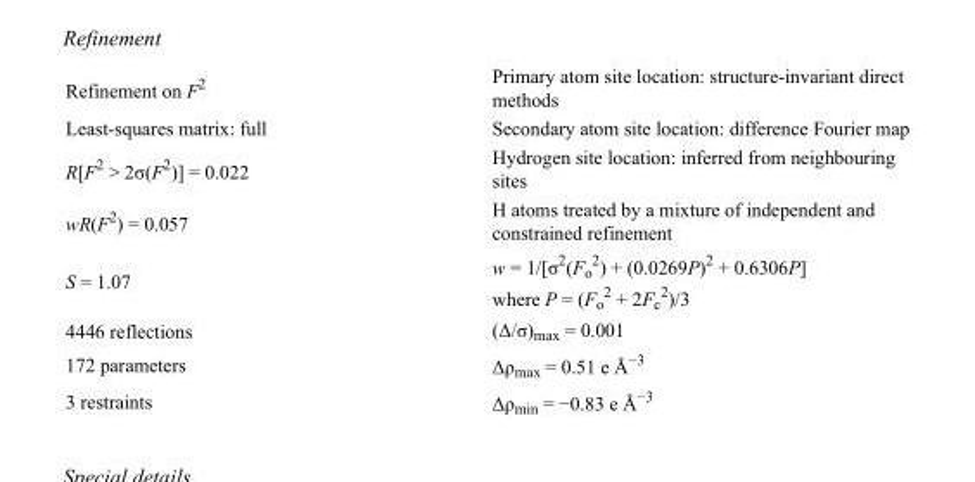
<table><tbody><tr><td>Refinement on F<sup>2</sup></td><td>Primary atom site location: structure-invariant direct methods</td></tr><tr><td>Least-squares matrix: full</td><td>Secondary atom site location: difference Fourier map</td></tr><tr><td>R[F<sup>2</sup> &gt; 2σ(F<sup>2</sup>)] = 0.022</td><td>Hydrogen site location: inferred from neighbouring sites</td></tr><tr><td>wR(F<sup>2</sup>) = 0.057</td><td>H atoms treated by a mixture of independent and constrained refinement</td></tr><tr><td>S = 1.07</td><td>w = 1/[σ<sup>2</sup>(F<sub>o</sub> <sup>2</sup>) + (0.0269P)<sup>2</sup> + 0.6306P] where P = (F<sub>o</sub> <sup>2</sup> + 2F<sub>c</sub> <sup>2</sup>)/3</td></tr><tr><td>4446 reflections</td><td>(Δ/σ)<sub>max</sub> = 0.001</td></tr><tr><td>172 parameters</td><td>Δρ<sub>max</sub> = 0.51 e Å<sup>−3</sup></td></tr><tr><td>3 restraints</td><td>Δρ<sub>min</sub> = −0.83 e Å<sup>−3</sup></td></tr></tbody></table>